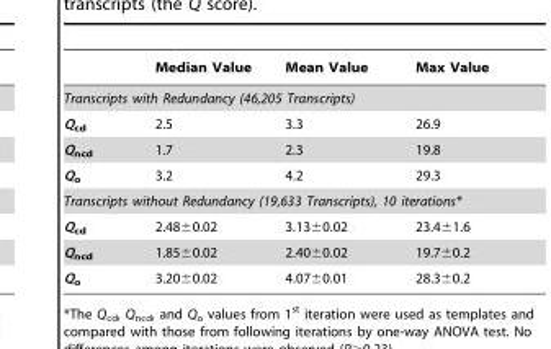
<table><thead><tr><td></td><td>Median Value</td><td>Mean Value</td><td>Max Value</td></tr></thead><tbody><tr><td colspan="4">Transcripts with Redundancy (46,205 Transcripts)</td></tr><tr><td>Q<sub>cd</sub></td><td>2.5</td><td>3.3</td><td>26.9</td></tr><tr><td>Q<sub>ncd</sub></td><td>1.7</td><td>2.3</td><td>19.8</td></tr><tr><td>Q<sub>o</sub></td><td>3.2</td><td>4.2</td><td>29.3</td></tr><tr><td colspan="4">Transcripts without Redundancy (19,633 Transcripts), 10 iterations*</td></tr><tr><td>Q<sub>cd</sub></td><td>2.48±0.02</td><td>3.13±0.02</td><td>23.4±1.6</td></tr><tr><td>Q<sub>ncd</sub></td><td>1.85±0.02</td><td>2.40±0.02</td><td>19.7±0.2</td></tr><tr><td>Q<sub>o</sub></td><td>3.20±0.02</td><td>4.07±0.01</td><td>28.3±0.2</td></tr></tbody></table>